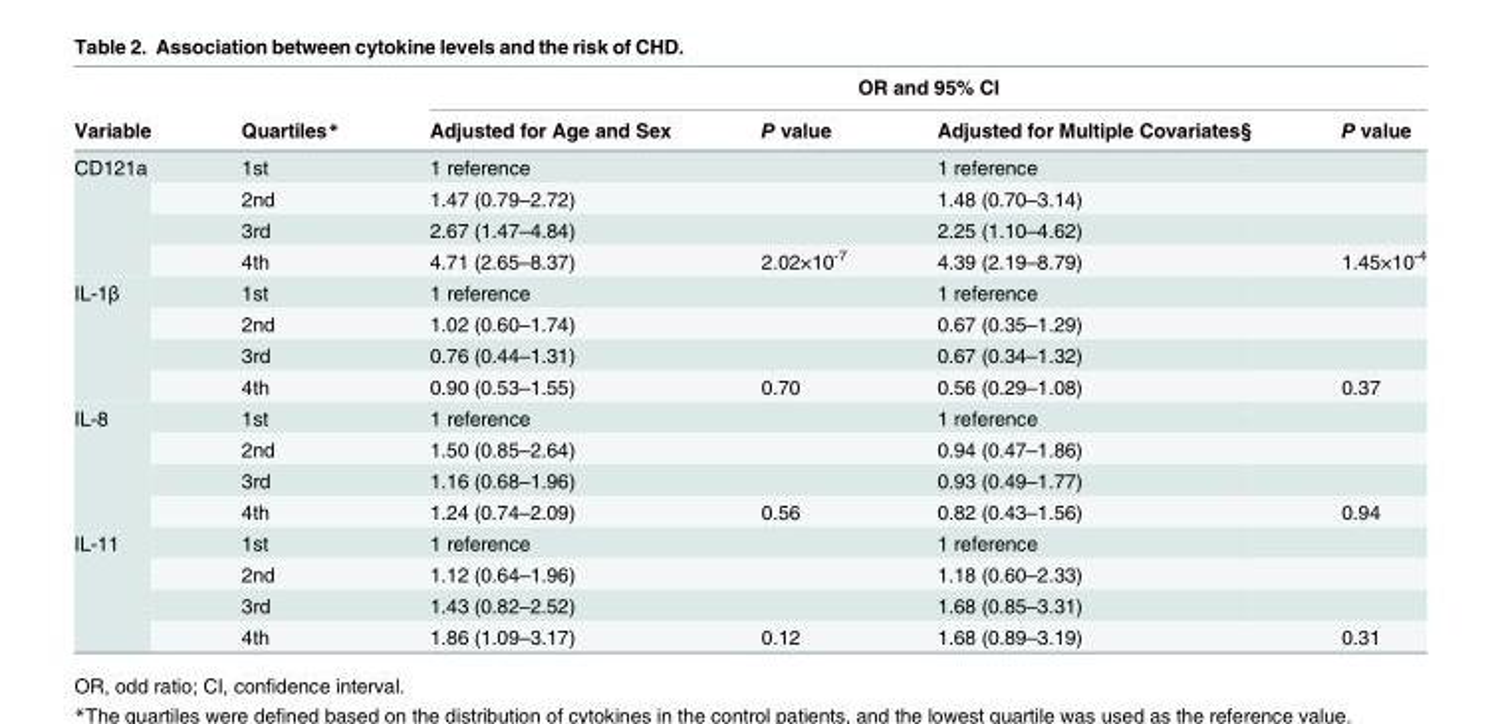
<table><thead><tr><td rowspan="2">Variable</td><td rowspan="2">Quartiles*</td><td colspan="4">OR and 95% CI</td></tr><tr><td>Adjusted for Age and Sex</td><td>P value</td><td>Adjusted for Multiple Covariates§</td><td>P value</td></tr></thead><tbody><tr><td rowspan="4">CD121a</td><td>1st</td><td>1 reference</td><td></td><td>1 reference</td><td></td></tr><tr><td>2nd</td><td>1.47 (0.79–2.72)</td><td></td><td>1.48 (0.70–3.14)</td><td></td></tr><tr><td>3rd</td><td>2.67 (1.47–4.84)</td><td></td><td>2.25 (1.10–4.62)</td><td></td></tr><tr><td>4th</td><td>4.71 (2.65–8.37)</td><td>2.02×10<sup>-7</sup></td><td>4.39 (2.19–8.79)</td><td>1.45×10<sup>-4</sup></td></tr><tr><td rowspan="4">IL-1β</td><td>1st</td><td>1 reference</td><td></td><td>1 reference</td><td></td></tr><tr><td>2nd</td><td>1.02 (0.60–1.74)</td><td></td><td>0.67 (0.35–1.29)</td><td></td></tr><tr><td>3rd</td><td>0.76 (0.44–1.31)</td><td></td><td>0.67 (0.34–1.32)</td><td></td></tr><tr><td>4th</td><td>0.90 (0.53–1.55)</td><td>0.70</td><td>0.56 (0.29–1.08)</td><td>0.37</td></tr><tr><td rowspan="4">IL-8</td><td>1st</td><td>1 reference</td><td></td><td>1 reference</td><td></td></tr><tr><td>2nd</td><td>1.50 (0.85–2.64)</td><td></td><td>0.94 (0.47–1.86)</td><td></td></tr><tr><td>3rd</td><td>1.16 (0.68–1.96)</td><td></td><td>0.93 (0.49–1.77)</td><td></td></tr><tr><td>4th</td><td>1.24 (0.74–2.09)</td><td>0.56</td><td>0.82 (0.43–1.56)</td><td>0.94</td></tr><tr><td rowspan="4">IL-11</td><td>1st</td><td>1 reference</td><td></td><td>1 reference</td><td></td></tr><tr><td>2nd</td><td>1.12 (0.64–1.96)</td><td></td><td>1.18 (0.60–2.33)</td><td></td></tr><tr><td>3rd</td><td>1.43 (0.82–2.52)</td><td></td><td>1.68 (0.85–3.31)</td><td></td></tr><tr><td>4th</td><td>1.86 (1.09–3.17)</td><td>0.12</td><td>1.68 (0.89–3.19)</td><td>0.31</td></tr></tbody></table>